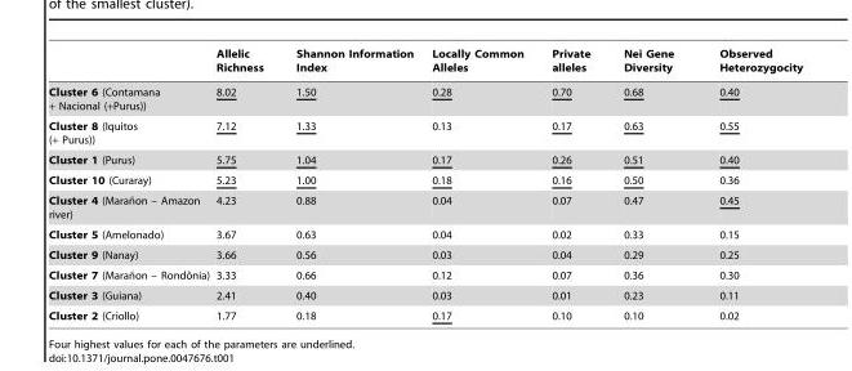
<table><thead><tr><td></td><td>Allelic Richness</td><td>Shannon Information Index</td><td>Locally Common Alleles</td><td>Private alleles</td><td>Nei Gene Diversity</td><td>Observed Heterozygocity</td></tr></thead><tbody><tr><td>Cluster 6 (Contamana + Nacional (+Purus))</td><td>8.02</td><td>1.50</td><td>0.28</td><td>0.70</td><td>0.68</td><td>0.40</td></tr><tr><td>Cluster 8 (Iquitos (+ Purus))</td><td>7.12</td><td>1.33</td><td>0.13</td><td>0.17</td><td>0.63</td><td>0.55</td></tr><tr><td>Cluster 1 (Purus)</td><td>5.75</td><td>1.04</td><td>0.17</td><td>0.26</td><td>0.51</td><td>0.40</td></tr><tr><td>Cluster 10 (Curaray)</td><td>5.23</td><td>1.00</td><td>0.18</td><td>0.16</td><td>0.50</td><td>0.36</td></tr><tr><td>Cluster 4 (Maran˜on – Amazon river)</td><td>4.23</td><td>0.88</td><td>0.04</td><td>0.07</td><td>0.47</td><td>0.45</td></tr><tr><td>Cluster 5 (Amelonado)</td><td>3.67</td><td>0.63</td><td>0.04</td><td>0.02</td><td>0.33</td><td>0.15</td></tr><tr><td>Cluster 9 (Nanay)</td><td>3.66</td><td>0.56</td><td>0.03</td><td>0.04</td><td>0.29</td><td>0.25</td></tr><tr><td>Cluster 7 (Maran˜on – Rondoˆnia)</td><td>3.33</td><td>0.66</td><td>0.12</td><td>0.07</td><td>0.36</td><td>0.30</td></tr><tr><td>Cluster 3 (Guiana)</td><td>2.41</td><td>0.40</td><td>0.03</td><td>0.01</td><td>0.23</td><td>0.11</td></tr><tr><td>Cluster 2 (Criollo)</td><td>1.77</td><td>0.18</td><td>0.17</td><td>0.10</td><td>0.10</td><td>0.02</td></tr></tbody></table>